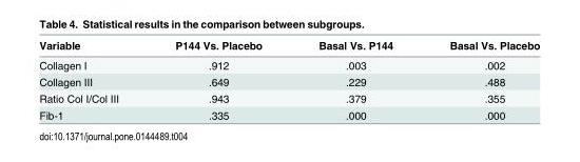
<table><thead><tr><td>Variable</td><td>P144 Vs. Placebo</td><td>Basal Vs. P144</td><td>Basal Vs. Placebo</td></tr></thead><tbody><tr><td>Collagen I</td><td>.912</td><td>.003</td><td>.002</td></tr><tr><td>Collagen III</td><td>.649</td><td>.229</td><td>.488</td></tr><tr><td>Ratio Col I/Col III</td><td>.943</td><td>.379</td><td>.355</td></tr><tr><td>Fib-1</td><td>.335</td><td>.000</td><td>.000</td></tr></tbody></table>